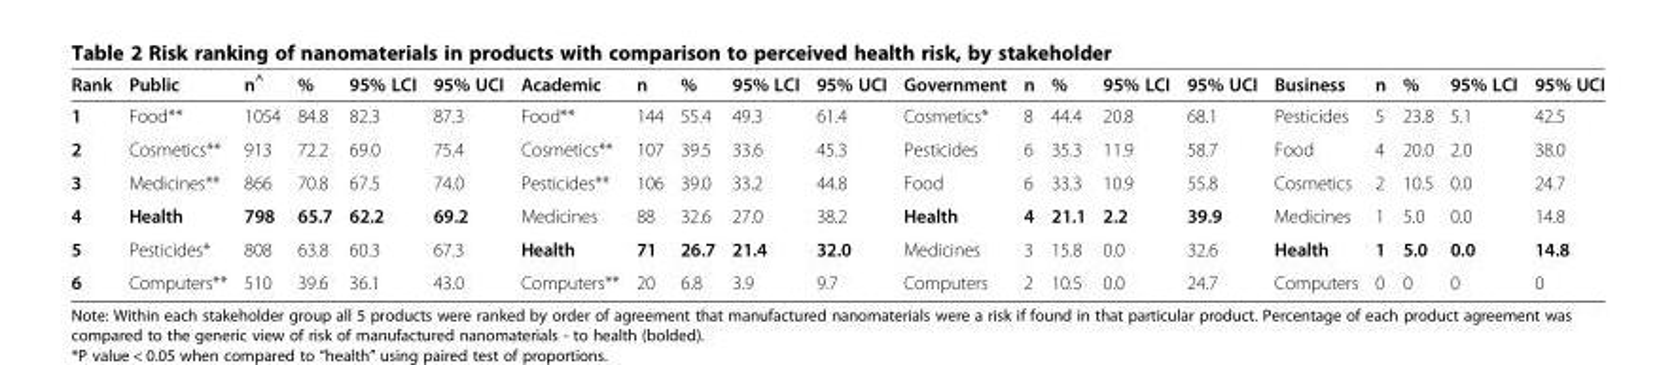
<table><thead><tr><td>Rank</td><td>Public</td><td>n<sup>^</sup></td><td>%</td><td>95% LCI</td><td>95% UCI</td><td>Academic</td><td>n</td><td>%</td><td>95% LCI</td><td>95% UCI</td><td>Government</td><td>n</td><td>%</td><td>95% LCI</td><td>95% UCI</td><td>Business</td><td>n</td><td>%</td><td>95% LCI</td><td>95% UCI</td></tr></thead><tbody><tr><td>1</td><td>Food**</td><td>1054</td><td>84.8</td><td>82.3</td><td>87.3</td><td>Food**</td><td>144</td><td>55.4</td><td>49.3</td><td>61.4</td><td>Cosmetics*</td><td>8</td><td>44.4</td><td>20.8</td><td>68.1</td><td>Pesticides</td><td>5</td><td>23.8</td><td>5.1</td><td>42.5</td></tr><tr><td>2</td><td>Cosmetics**</td><td>913</td><td>72.2</td><td>69.0</td><td>75.4</td><td>Cosmetics**</td><td>107</td><td>39.5</td><td>33.6</td><td>45.3</td><td>Pesticides</td><td>6</td><td>35.3</td><td>11.9</td><td>58.7</td><td>Food</td><td>4</td><td>20.0</td><td>2.0</td><td>38.0</td></tr><tr><td>3</td><td>Medicines**</td><td>866</td><td>70.8</td><td>67.5</td><td>74.0</td><td>Pesticides**</td><td>106</td><td>39.0</td><td>33.2</td><td>44.8</td><td>Food</td><td>6</td><td>33.3</td><td>10.9</td><td>55.8</td><td>Cosmetics</td><td>2</td><td>10.5</td><td>0.0</td><td>24.7</td></tr><tr><td>4</td><td>Health</td><td>798</td><td>65.7</td><td>62.2</td><td>69.2</td><td>Medicines</td><td>88</td><td>32.6</td><td>27.0</td><td>38.2</td><td>Health</td><td>4</td><td>21.1</td><td>2.2</td><td>39.9</td><td>Medicines</td><td>1</td><td>5.0</td><td>0.0</td><td>14.8</td></tr><tr><td>5</td><td>Pesticides*</td><td>808</td><td>63.8</td><td>60.3</td><td>67.3</td><td>Health</td><td>71</td><td>26.7</td><td>21.4</td><td>32.0</td><td>Medicines</td><td>3</td><td>15.8</td><td>0.0</td><td>32.6</td><td>Health</td><td>1</td><td>5.0</td><td>0.0</td><td>14.8</td></tr><tr><td>6</td><td>Computers**</td><td>510</td><td>39.6</td><td>36.1</td><td>43.0</td><td>Computers**</td><td>20</td><td>6.8</td><td>3.9</td><td>9.7</td><td>Computers</td><td>2</td><td>10.5</td><td>0.0</td><td>24.7</td><td>Computers</td><td>0</td><td>0</td><td>0</td><td>0</td></tr></tbody></table>